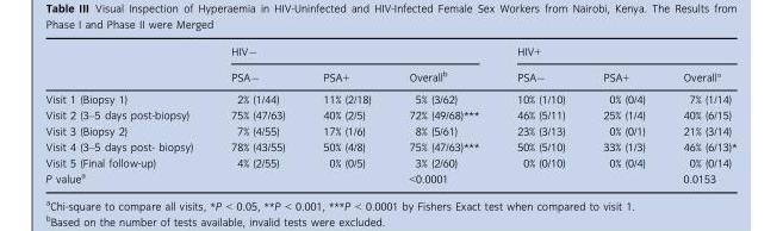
<table><thead><tr><td rowspan="2"></td><td colspan="3">HIV−</td><td colspan="3">HIV+</td></tr><tr><td>PSA−</td><td>PSA+</td><td>Overall<sup>b</sup></td><td>PSA−</td><td>PSA+</td><td>Overall°</td></tr></thead><tbody><tr><td>Visit 1 (Biopsy 1)</td><td>2% (1/44)</td><td>11% (2/18)</td><td>5% (3/62)</td><td>10% (1/10)</td><td>0% (0/4)</td><td>7% (1/14)</td></tr><tr><td>Visit 2 (3–5 days post-biopsy)</td><td>75% (47/63)</td><td>40% (2/5)</td><td>72% (49/68)***</td><td>46% (5/11)</td><td>25% (1/4)</td><td>40% (6/15)</td></tr><tr><td>Visit 3 (Biopsy 2)</td><td>7% (4/55)</td><td>17% (1/6)</td><td>8% (5/61)</td><td>23% (3/13)</td><td>0% (0/1)</td><td>21% (3/14)</td></tr><tr><td>Visit 4 (3–5 days post- biopsy)</td><td>78% (43/55)</td><td>50% (4/8)</td><td>75% (47/63)***</td><td>50% (5/10)</td><td>33% (1/3)</td><td>46% (6/13)*</td></tr><tr><td>Visit 5 (Final follow-up)</td><td>4% (2/55)</td><td>0% (0/5)</td><td>3% (2/60)</td><td>0% (0/10)</td><td>0% (0/4)</td><td>0% (0/14)</td></tr><tr><td>P value<sup>a</sup></td><td></td><td></td><td>&lt;0.0001</td><td></td><td></td><td>0.0153</td></tr></tbody></table>